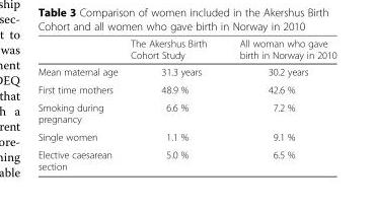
<table><thead><tr><td></td><td>The Akershus Birth Cohort Study</td><td>All woman who gave birth in Norway in 2010</td></tr></thead><tbody><tr><td>Mean maternal age</td><td>31.3 years</td><td>30.2 years</td></tr><tr><td>First time mothers</td><td>48.9 %</td><td>42.6 %</td></tr><tr><td>Smoking during pregnancy</td><td>6.6 %</td><td>7.2 %</td></tr><tr><td>Single women</td><td>1.1 %</td><td>9.1 %</td></tr><tr><td>Elective caesarean section</td><td>5.0 %</td><td>6.5 %</td></tr></tbody></table>